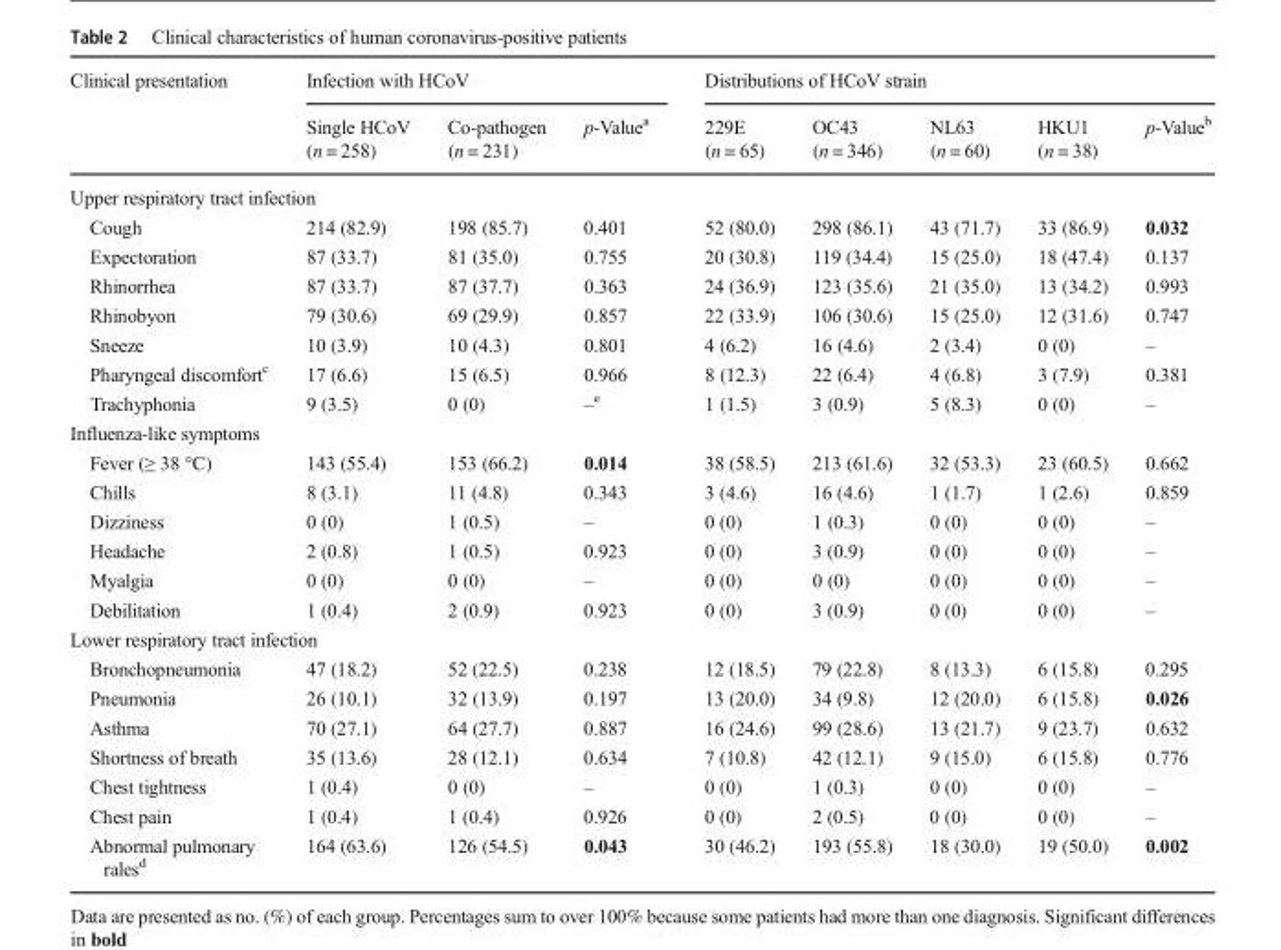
<table><thead><tr><td rowspan="2">Clinical presentation</td><td colspan="3">Infection with HCoV</td><td colspan="5">Distributions of HCoV strain</td></tr><tr><td>Single HCoV (n = 258)</td><td>Co-pathogen (n = 231)</td><td>p-Value<sup>a</sup></td><td>229E (n = 65)</td><td>OC43 (n = 346)</td><td>NL63 (n = 60)</td><td>HKU1 (n = 38)</td><td>p-Value<sup>b</sup></td></tr></thead><tbody><tr><td colspan="9">Upper respiratory tract infection</td></tr><tr><td>Cough</td><td>214 (82.9)</td><td>198 (85.7)</td><td>0.401</td><td>52 (80.0)</td><td>298 (86.1)</td><td>43 (71.7)</td><td>33 (86.9)</td><td>0.032</td></tr><tr><td>Expectoration</td><td>87 (33.7)</td><td>81 (35.0)</td><td>0.755</td><td>20 (30.8)</td><td>119 (34.4)</td><td>15 (25.0)</td><td>18 (47.4)</td><td>0.137</td></tr><tr><td>Rhinorrhea</td><td>87 (33.7)</td><td>87 (37.7)</td><td>0.363</td><td>24 (36.9)</td><td>123 (35.6)</td><td>21 (35.0)</td><td>13 (34.2)</td><td>0.993</td></tr><tr><td>Rhinobyon</td><td>79 (30.6)</td><td>69 (29.9)</td><td>0.857</td><td>22 (33.9)</td><td>106 (30.6)</td><td>15 (25.0)</td><td>12 (31.6)</td><td>0.747</td></tr><tr><td>Sneeze</td><td>10 (3.9)</td><td>10 (4.3)</td><td>0.801</td><td>4 (6.2)</td><td>16 (4.6)</td><td>2 (3.4)</td><td>0 (0)</td><td>–</td></tr><tr><td>Pharyngeal discomfort<sup>c</sup></td><td>17 (6.6)</td><td>15 (6.5)</td><td>0.966</td><td>8 (12.3)</td><td>22 (6.4)</td><td>4 (6.8)</td><td>3 (7.9)</td><td>0.381</td></tr><tr><td>Trachyphonia</td><td>9 (3.5)</td><td>0 (0)</td><td>–<sup>e</sup></td><td>1 (1.5)</td><td>3 (0.9)</td><td>5 (8.3)</td><td>0 (0)</td><td>–</td></tr><tr><td colspan="9">Influenza-like symptoms</td></tr><tr><td>Fever (≥ 38 °C)</td><td>143 (55.4)</td><td>153 (66.2)</td><td>0.014</td><td>38 (58.5)</td><td>213 (61.6)</td><td>32 (53.3)</td><td>23 (60.5)</td><td>0.662</td></tr><tr><td>Chills</td><td>8 (3.1)</td><td>11 (4.8)</td><td>0.343</td><td>3 (4.6)</td><td>16 (4.6)</td><td>1 (1.7)</td><td>1 (2.6)</td><td>0.859</td></tr><tr><td>Dizziness</td><td>0 (0)</td><td>1 (0.5)</td><td>–</td><td>0 (0)</td><td>1 (0.3)</td><td>0 (0)</td><td>0 (0)</td><td>–</td></tr><tr><td>Headache</td><td>2 (0.8)</td><td>1 (0.5)</td><td>0.923</td><td>0 (0)</td><td>3 (0.9)</td><td>0 (0)</td><td>0 (0)</td><td>–</td></tr><tr><td>Myalgia</td><td>0 (0)</td><td>0 (0)</td><td>–</td><td>0 (0)</td><td>0 (0)</td><td>0 (0)</td><td>0 (0)</td><td>–</td></tr><tr><td>Debilitation</td><td>1 (0.4)</td><td>2 (0.9)</td><td>0.923</td><td>0 (0)</td><td>3 (0.9)</td><td>0 (0)</td><td>0 (0)</td><td>–</td></tr><tr><td colspan="9">Lower respiratory tract infection</td></tr><tr><td>Bronchopneumonia</td><td>47 (18.2)</td><td>52 (22.5)</td><td>0.238</td><td>12 (18.5)</td><td>79 (22.8)</td><td>8 (13.3)</td><td>6 (15.8)</td><td>0.295</td></tr><tr><td>Pneumonia</td><td>26 (10.1)</td><td>32 (13.9)</td><td>0.197</td><td>13 (20.0)</td><td>34 (9.8)</td><td>12 (20.0)</td><td>6 (15.8)</td><td>0.026</td></tr><tr><td>Asthma</td><td>70 (27.1)</td><td>64 (27.7)</td><td>0.887</td><td>16 (24.6)</td><td>99 (28.6)</td><td>13 (21.7)</td><td>9 (23.7)</td><td>0.632</td></tr><tr><td>Shortness of breath</td><td>35 (13.6)</td><td>28 (12.1)</td><td>0.634</td><td>7 (10.8)</td><td>42 (12.1)</td><td>9 (15.0)</td><td>6 (15.8)</td><td>0.776</td></tr><tr><td>Chest tightness</td><td>1 (0.4)</td><td>0 (0)</td><td>–</td><td>0 (0)</td><td>1 (0.3)</td><td>0 (0)</td><td>0 (0)</td><td>–</td></tr><tr><td>Chest pain</td><td>1 (0.4)</td><td>1 (0.4)</td><td>0.926</td><td>0 (0)</td><td>2 (0.5)</td><td>0 (0)</td><td>0 (0)</td><td>–</td></tr><tr><td>Abnormal pulmonary rales<sup>d</sup></td><td>164 (63.6)</td><td>126 (54.5)</td><td>0.043</td><td>30 (46.2)</td><td>193 (55.8)</td><td>18 (30.0)</td><td>19 (50.0)</td><td>0.002</td></tr></tbody></table>